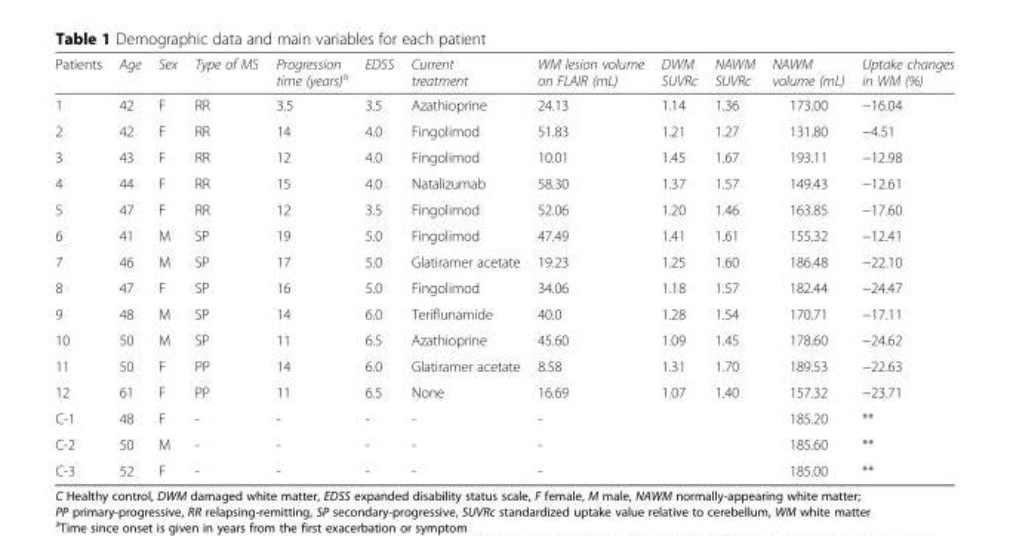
<table><thead><tr><td>Patients</td><td>Age</td><td>Sex</td><td>Type of MS</td><td>Progression time (years)<sup>a</sup></td><td>EDSS</td><td>Current treatment</td><td>WM lesion volume on FLAIR (mL)</td><td>DWM SUVRc</td><td>NAWM SUVRc</td><td>NAWM volume (mL)</td><td>Uptake changes in WM (%)</td></tr></thead><tbody><tr><td>1</td><td>42</td><td>F</td><td>RR</td><td>3.5</td><td>3.5</td><td>Azathioprine</td><td>24.13</td><td>1.14</td><td>1.36</td><td>173.00</td><td>−16.04</td></tr><tr><td>2</td><td>42</td><td>F</td><td>RR</td><td>14</td><td>4.0</td><td>Fingolimod</td><td>51.83</td><td>1.21</td><td>1.27</td><td>131.80</td><td>−4.51</td></tr><tr><td>3</td><td>43</td><td>F</td><td>RR</td><td>12</td><td>4.0</td><td>Fingolimod</td><td>10.01</td><td>1.45</td><td>1.67</td><td>193.11</td><td>−12.98</td></tr><tr><td>4</td><td>44</td><td>F</td><td>RR</td><td>15</td><td>4.0</td><td>Natalizumab</td><td>58.30</td><td>1.37</td><td>1.57</td><td>149.43</td><td>−12.61</td></tr><tr><td>5</td><td>47</td><td>F</td><td>RR</td><td>12</td><td>3.5</td><td>Fingolimod</td><td>52.06</td><td>1.20</td><td>1.46</td><td>163.85</td><td>−17.60</td></tr><tr><td>6</td><td>41</td><td>M</td><td>SP</td><td>19</td><td>5.0</td><td>Fingolimod</td><td>47.49</td><td>1.41</td><td>1.61</td><td>155.32</td><td>−12.41</td></tr><tr><td>7</td><td>46</td><td>M</td><td>SP</td><td>17</td><td>5.0</td><td>Glatiramer acetate</td><td>19.23</td><td>1.25</td><td>1.60</td><td>186.48</td><td>−22.10</td></tr><tr><td>8</td><td>47</td><td>F</td><td>SP</td><td>16</td><td>5.0</td><td>Fingolimod</td><td>34.06</td><td>1.18</td><td>1.57</td><td>182.44</td><td>−24.47</td></tr><tr><td>9</td><td>48</td><td>M</td><td>SP</td><td>14</td><td>6.0</td><td>Teriflunamide</td><td>40.0</td><td>1.28</td><td>1.54</td><td>170.71</td><td>−17.11</td></tr><tr><td>10</td><td>50</td><td>M</td><td>SP</td><td>11</td><td>6.5</td><td>Azathioprine</td><td>45.60</td><td>1.09</td><td>1.45</td><td>178.60</td><td>−24.62</td></tr><tr><td>11</td><td>50</td><td>F</td><td>PP</td><td>14</td><td>6.0</td><td>Glatiramer acetate</td><td>8.58</td><td>1.31</td><td>1.70</td><td>189.53</td><td>−22.63</td></tr><tr><td>12</td><td>61</td><td>F</td><td>PP</td><td>11</td><td>6.5</td><td>None</td><td>16.69</td><td>1.07</td><td>1.40</td><td>157.32</td><td>−23.71</td></tr><tr><td>C-1</td><td>48</td><td>F</td><td>-</td><td>-</td><td>-</td><td>-</td><td>-</td><td></td><td></td><td>185.20</td><td>**</td></tr><tr><td>C-2</td><td>50</td><td>M</td><td>-</td><td>-</td><td>-</td><td>-</td><td>-</td><td></td><td></td><td>185.60</td><td>**</td></tr><tr><td>C-3</td><td>52</td><td>F</td><td>-</td><td>-</td><td>-</td><td>-</td><td>-</td><td></td><td></td><td>185.00</td><td>**</td></tr></tbody></table>